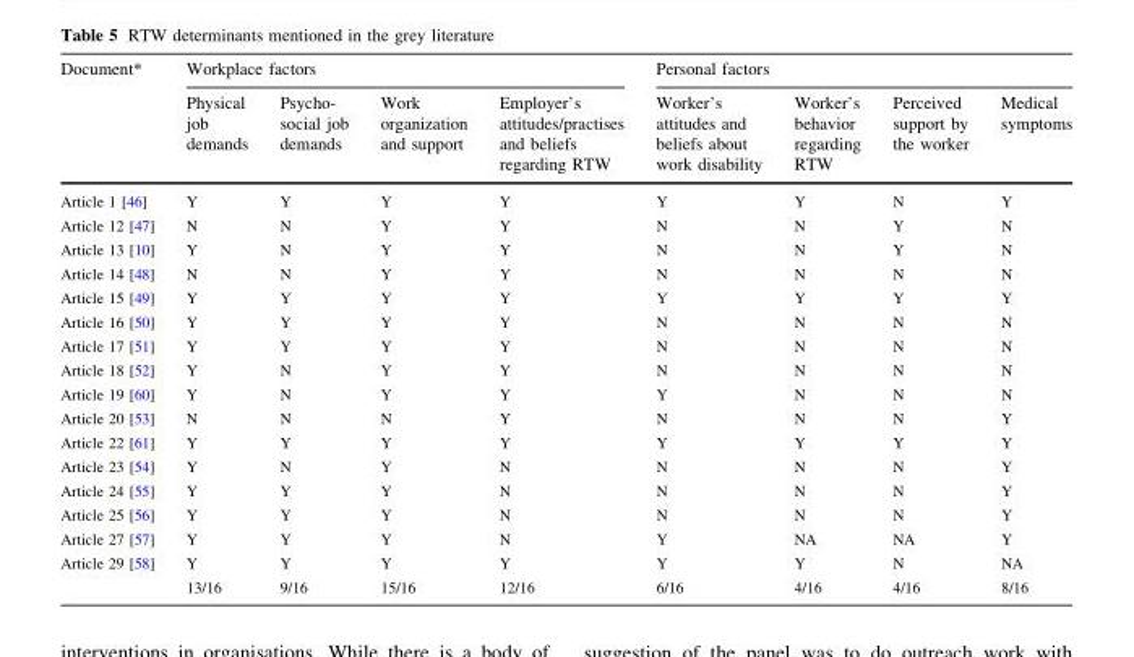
<table><thead><tr><td rowspan="2">Document*</td><td colspan="4">Workplace factors</td><td colspan="4">Personal factors</td></tr><tr><td>Physical job demands</td><td>Psycho- social job demands</td><td>Work organization and support</td><td>Employer’s attitudes/practises and beliefs regarding RTW</td><td>Worker’s attitudes and beliefs about work disability</td><td>Worker’s behavior regarding RTW</td><td>Perceived support by the worker</td><td>Medical symptoms</td></tr></thead><tbody><tr><td>Article 1 [46]</td><td>Y</td><td>Y</td><td>Y</td><td>Y</td><td>Y</td><td>Y</td><td>N</td><td>Y</td></tr><tr><td>Article 12 [47]</td><td>N</td><td>N</td><td>Y</td><td>Y</td><td>N</td><td>N</td><td>Y</td><td>N</td></tr><tr><td>Article 13 [10]</td><td>Y</td><td>N</td><td>Y</td><td>Y</td><td>N</td><td>N</td><td>Y</td><td>N</td></tr><tr><td>Article 14 [48]</td><td>N</td><td>N</td><td>Y</td><td>Y</td><td>N</td><td>N</td><td>N</td><td>N</td></tr><tr><td>Article 15 [49]</td><td>Y</td><td>Y</td><td>Y</td><td>Y</td><td>Y</td><td>Y</td><td>Y</td><td>Y</td></tr><tr><td>Article 16 [50]</td><td>Y</td><td>Y</td><td>Y</td><td>Y</td><td>N</td><td>N</td><td>N</td><td>N</td></tr><tr><td>Article 17 [51]</td><td>Y</td><td>Y</td><td>Y</td><td>Y</td><td>N</td><td>N</td><td>N</td><td>N</td></tr><tr><td>Article 18 [52]</td><td>Y</td><td>N</td><td>Y</td><td>Y</td><td>N</td><td>N</td><td>N</td><td>N</td></tr><tr><td>Article 19 [60]</td><td>Y</td><td>N</td><td>Y</td><td>Y</td><td>Y</td><td>N</td><td>N</td><td>N</td></tr><tr><td>Article 20 [53]</td><td>N</td><td>N</td><td>N</td><td>Y</td><td>N</td><td>N</td><td>N</td><td>Y</td></tr><tr><td>Article 22 [61]</td><td>Y</td><td>Y</td><td>Y</td><td>Y</td><td>Y</td><td>Y</td><td>Y</td><td>Y</td></tr><tr><td>Article 23 [54]</td><td>Y</td><td>N</td><td>Y</td><td>N</td><td>N</td><td>N</td><td>N</td><td>Y</td></tr><tr><td>Article 24 [55]</td><td>Y</td><td>Y</td><td>Y</td><td>N</td><td>N</td><td>N</td><td>N</td><td>Y</td></tr><tr><td>Article 25 [56]</td><td>Y</td><td>Y</td><td>Y</td><td>N</td><td>N</td><td>N</td><td>N</td><td>Y</td></tr><tr><td>Article 27 [57]</td><td>Y</td><td>Y</td><td>Y</td><td>N</td><td>Y</td><td>NA</td><td>NA</td><td>Y</td></tr><tr><td rowspan="2">Article 29 [58]</td><td>Y</td><td>Y</td><td>Y</td><td>Y</td><td>Y</td><td>Y</td><td>N</td><td>NA</td></tr><tr><td>13/16</td><td>9/16</td><td>15/16</td><td>12/16</td><td>6/16</td><td>4/16</td><td>4/16</td><td>8/16</td></tr></tbody></table>